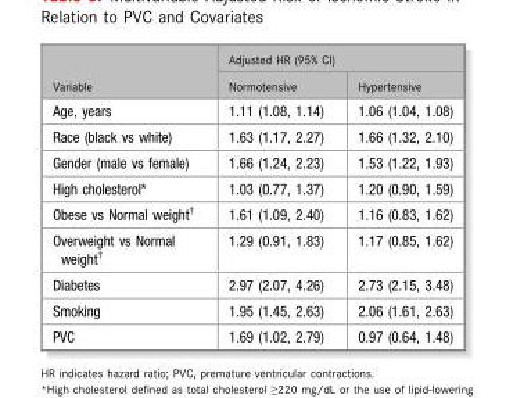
<table><thead><tr><td rowspan="2">Variable</td><td colspan="2">Adjusted HR (95% CI)</td></tr><tr><td>Normotensive</td><td>Hypertensive</td></tr></thead><tbody><tr><td>Age, years</td><td>1.11 (1.08, 1.14)</td><td>1.06 (1.04, 1.08)</td></tr><tr><td>Race (black vs white)</td><td>1.63 (1.17, 2.27)</td><td>1.66 (1.32, 2.10)</td></tr><tr><td>Gender (male vs female)</td><td>1.66 (1.24, 2.23)</td><td>1.53 (1.22, 1.93)</td></tr><tr><td>High cholesterol*</td><td>1.03 (0.77, 1.37)</td><td>1.20 (0.90, 1.59)</td></tr><tr><td>Obese vs Normal weight†</td><td>1.61 (1.09, 2.40)</td><td>1.16 (0.83, 1.62)</td></tr><tr><td>Overweight vs Normal weight†</td><td>1.29 (0.91, 1.83)</td><td>1.17 (0.85, 1.62)</td></tr><tr><td>Diabetes</td><td>2.97 (2.07, 4.26)</td><td>2.73 (2.15, 3.48)</td></tr><tr><td>Smoking</td><td>1.95 (1.45, 2.63)</td><td>2.06 (1.61, 2.63)</td></tr><tr><td>PVC</td><td>1.69 (1.02, 2.79)</td><td>0.97 (0.64, 1.48)</td></tr></tbody></table>